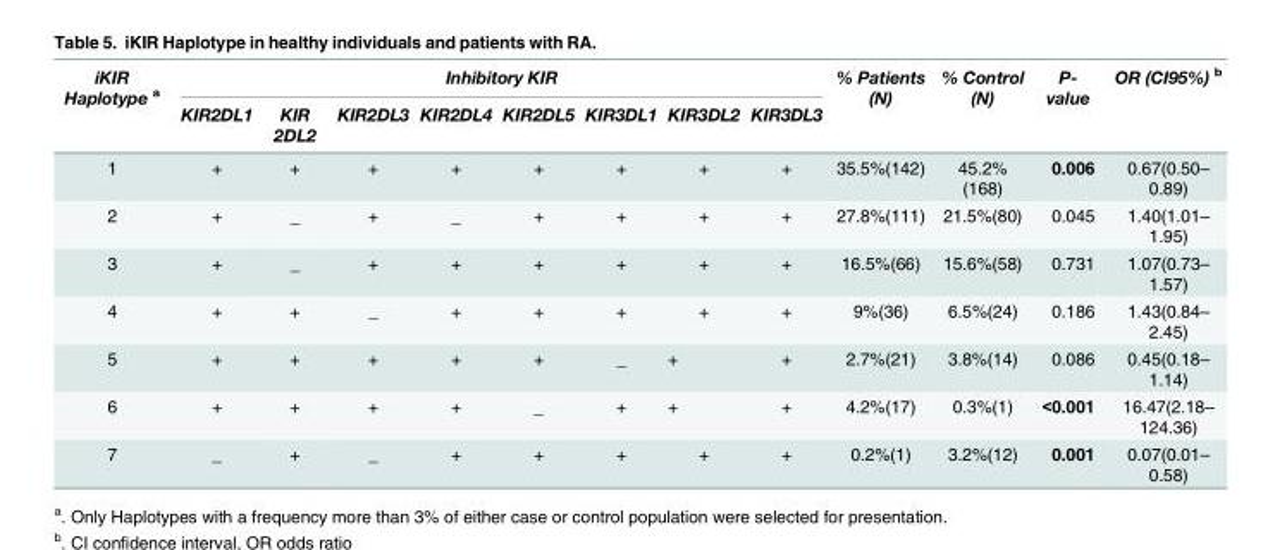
<table><thead><tr><td rowspan="2">iKIR Haplotype <sup>a</sup></td><td colspan="8">Inhibitory KIR</td><td rowspan="2">% Patients (N)</td><td rowspan="2">% Control (N)</td><td rowspan="2">P- value</td><td rowspan="2">OR (CI95%) <sup>b</sup></td></tr><tr><td>KIR2DL1</td><td>KIR 2DL2</td><td>KIR2DL3</td><td>KIR2DL4</td><td>KIR2DL5</td><td>KIR3DL1</td><td>KIR3DL2</td><td>KIR3DL3</td></tr></thead><tbody><tr><td>1</td><td>+</td><td>+</td><td>+</td><td>+</td><td>+</td><td>+</td><td>+</td><td>+</td><td>35.5%(142)</td><td>45.2% (168)</td><td>0.006</td><td>0.67(0.50– 0.89)</td></tr><tr><td>2</td><td>+</td><td>_</td><td>+</td><td>_</td><td>+</td><td>+</td><td>+</td><td>+</td><td>27.8%(111)</td><td>21.5%(80)</td><td>0.045</td><td>1.40(1.01– 1.95)</td></tr><tr><td>3</td><td>+</td><td>_</td><td>+</td><td>+</td><td>+</td><td>+</td><td>+</td><td>+</td><td>16.5%(66)</td><td>15.6%(58)</td><td>0.731</td><td>1.07(0.73– 1.57)</td></tr><tr><td>4</td><td>+</td><td>+</td><td>_</td><td>+</td><td>+</td><td>+</td><td>+</td><td>+</td><td>9%(36)</td><td>6.5%(24)</td><td>0.186</td><td>1.43(0.84– 2.45)</td></tr><tr><td>5</td><td>+</td><td>+</td><td>+</td><td>+</td><td>+</td><td>_</td><td>+</td><td>+</td><td>2.7%(21)</td><td>3.8%(14)</td><td>0.086</td><td>0.45(0.18– 1.14)</td></tr><tr><td>6</td><td>+</td><td>+</td><td>+</td><td>+</td><td>_</td><td>+</td><td>+</td><td>+</td><td>4.2%(17)</td><td>0.3%(1)</td><td>&lt;0.001</td><td>16.47(2.18– 124.36)</td></tr><tr><td>7</td><td>_</td><td>+</td><td>_</td><td>+</td><td>+</td><td>+</td><td>+</td><td>+</td><td>0.2%(1)</td><td>3.2%(12)</td><td>0.001</td><td>0.07(0.01– 0.58)</td></tr></tbody></table>